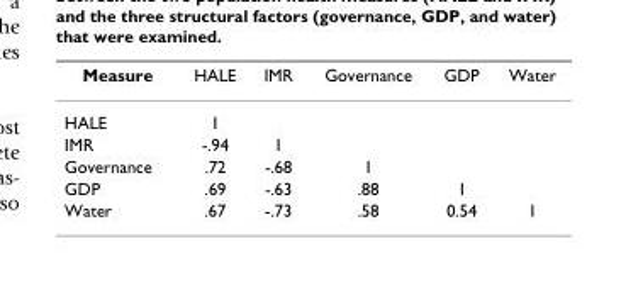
<table><thead><tr><td>Measure</td><td>HALE</td><td>IMR</td><td>Governance</td><td>GDP</td><td>Water</td></tr></thead><tbody><tr><td>HALE</td><td>1</td><td></td><td></td><td></td><td></td></tr><tr><td>IMR</td><td>-.94</td><td>1</td><td></td><td></td><td></td></tr><tr><td>Governance</td><td>.72</td><td>-.68</td><td>1</td><td></td><td></td></tr><tr><td>GDP</td><td>.69</td><td>-.63</td><td>.88</td><td>1</td><td></td></tr><tr><td>Water</td><td>.67</td><td>-.73</td><td>.58</td><td>0.54</td><td>1</td></tr></tbody></table>